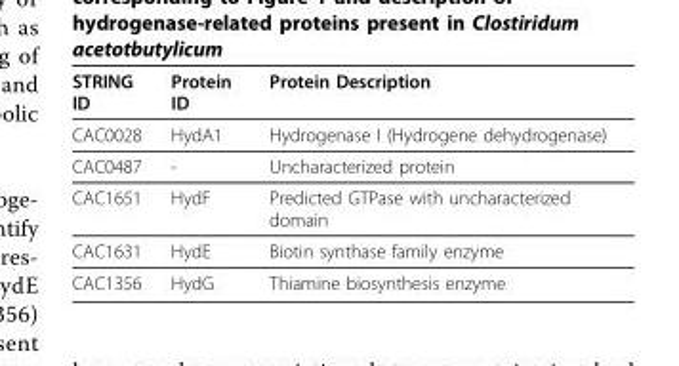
<table><thead><tr><td>STRING ID</td><td>Protein ID</td><td>Protein Description</td></tr></thead><tbody><tr><td>CAC0028</td><td>HydA1</td><td>Hydrogenase I (Hydrogene dehydrogenase)</td></tr><tr><td>CAC0487</td><td>-</td><td>Uncharacterized protein</td></tr><tr><td>CAC1651</td><td>HydF</td><td>Predicted GTPase with uncharacterized domain</td></tr><tr><td>CAC1631</td><td>HydE</td><td>Biotin synthase family enzyme</td></tr><tr><td>CAC1356</td><td>HydG</td><td>Thiamine biosynthesis enzyme</td></tr></tbody></table>